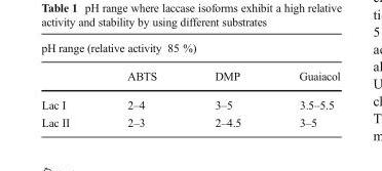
<table><thead><tr><td colspan="4">pH range (relative activity 85 %)</td></tr><tr><td></td><td>ABTS</td><td>DMP</td><td>Guaiacol</td></tr></thead><tbody><tr><td>Lac I</td><td>2–4</td><td>3–5</td><td>3.5–5.5</td></tr><tr><td>Lac II</td><td>2–3</td><td>2–4.5</td><td>3–5</td></tr></tbody></table>